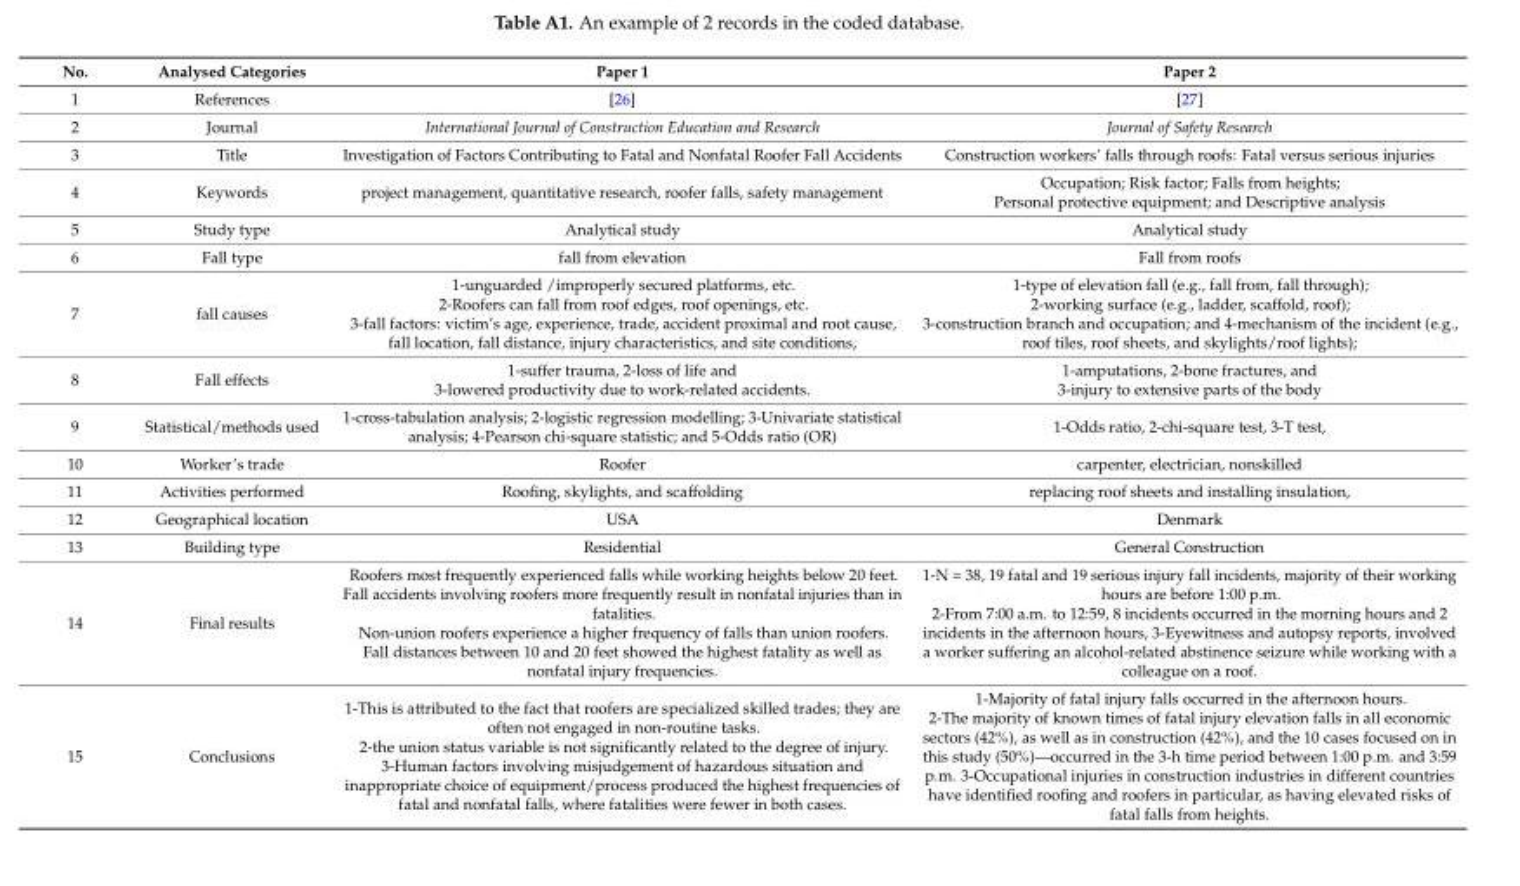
<table><thead><tr><td>No.</td><td>Analysed Categories</td><td>Paper 1</td><td>Paper 2</td></tr></thead><tbody><tr><td>1</td><td>References</td><td>[26]</td><td>[27]</td></tr><tr><td>2</td><td>Journal</td><td>International Journal of Construction Education and Research</td><td>Journal of Safety Research</td></tr><tr><td>3</td><td>Title</td><td>Investigation of Factors Contributing to Fatal and Nonfatal Roofer Fall Accidents</td><td>Construction workers’ falls through roofs: Fatal versus serious injuries</td></tr><tr><td>4</td><td>Keywords</td><td>project management, quantitative research, roofer falls, safety management</td><td>Occupation; Risk factor; Falls from heights; Personal protective equipment; and Descriptive analysis</td></tr><tr><td>5</td><td>Study type</td><td>Analytical study</td><td>Analytical study</td></tr><tr><td>6</td><td>Fall type</td><td>fall from elevation</td><td>Fall from roofs</td></tr><tr><td>7</td><td>fall causes</td><td>1-unguarded /improperly secured platforms, etc. 2-Roofers can fall from roof edges, roof openings, etc. 3-fall factors: victim’s age, experience, trade, accident proximal and root cause, fall location, fall distance, injury characteristics, and site conditions,</td><td>1-type of elevation fall (e.g., fall from, fall through); 2-working surface (e.g., ladder, scaffold, roof); 3-construction branch and occupation; and 4-mechanism of the incident (e.g., roof tiles, roof sheets, and skylights/roof lights);</td></tr><tr><td>8</td><td>Fall effects</td><td>1-suffer trauma, 2-loss of life and 3-lowered productivity due to work-related accidents.</td><td>1-amputations, 2-bone fractures, and 3-injury to extensive parts of the body</td></tr><tr><td>9</td><td>Statistical/methods used</td><td>1-cross-tabulation analysis; 2-logistic regression modelling; 3-Univariate statistical analysis; 4-Pearson chi-square statistic; and 5-Odds ratio (OR)</td><td>1-Odds ratio, 2-chi-square test, 3-T test,</td></tr><tr><td>10</td><td>Worker’s trade</td><td>Roofer</td><td>carpenter, electrician, nonskilled</td></tr><tr><td>11</td><td>Activities performed</td><td>Roofing, skylights, and scaffolding</td><td>replacing roof sheets and installing insulation,</td></tr><tr><td>12</td><td>Geographical location</td><td>USA</td><td>Denmark</td></tr><tr><td>13</td><td>Building type</td><td>Residential</td><td>General Construction</td></tr><tr><td>14</td><td>Final results</td><td>Roofers most frequently experienced falls while working heights below 20 feet. Fall accidents involving roofers more frequently result in nonfatal injuries than in fatalities. Non-union roofers experience a higher frequency of falls than union roofers. Fall distances between 10 and 20 feet showed the highest fatality as well as nonfatal injury frequencies.</td><td>1-N = 38, 19 fatal and 19 serious injury fall incidents, majority of their working hours are before 1:00 p.m. 2-From 7:00 a.m. to 12:59, 8 incidents occurred in the morning hours and 2 incidents in the afternoon hours, 3-Eyewitness and autopsy reports, involved a worker suffering an alcohol-related abstinence seizure while working with a colleague on a roof.</td></tr><tr><td>15</td><td>Conclusions</td><td>1-This is attributed to the fact that roofers are specialized skilled trades; they are often not engaged in non-routine tasks. 2-the union status variable is not significantly related to the degree of injury. 3-Human factors involving misjudgement of hazardous situation and inappropriate choice of equipment/process produced the highest frequencies of fatal and nonfatal falls, where fatalities were fewer in both cases.</td><td>1-Majority of fatal injury falls occurred in the afternoon hours. 2-The majority of known times of fatal injury elevation falls in all economic sectors (42%), as well as in construction (42%), and the 10 cases focused on in this study (50%)—occurred in the 3-h time period between 1:00 p.m. and 3:59 p.m. 3-Occupational injuries in construction industries in different countries have identified roofing and roofers in particular, as having elevated risks of fatal falls from heights.</td></tr></tbody></table>